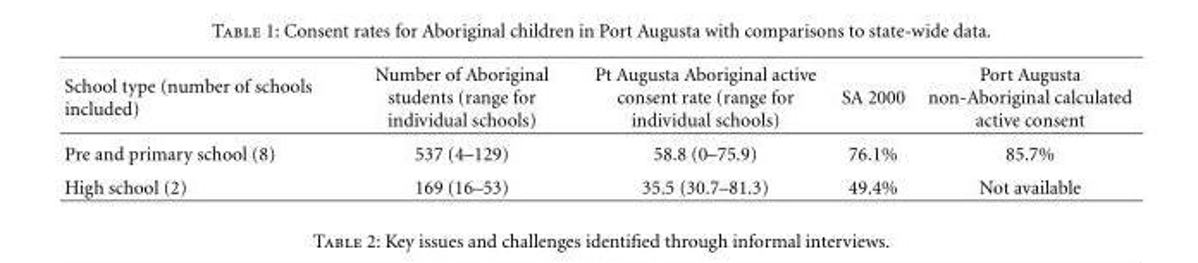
<table><thead><tr><td>School type (number of schools included)</td><td>Number of Aboriginal students (range for individual schools)</td><td>Pt Augusta Aboriginal active consent rate (range for individual schools)</td><td>SA 2000</td><td>Port Augusta non-Aboriginal calculated active consent</td></tr></thead><tbody><tr><td>Pre and primary school (8)</td><td>537 (4–129)</td><td>58.8 (0–75.9)</td><td>76.1%</td><td>85.7%</td></tr><tr><td>High school (2)</td><td>169 (16–53)</td><td>35.5 (30.7–81.3)</td><td>49.4%</td><td>Not available</td></tr></tbody></table>